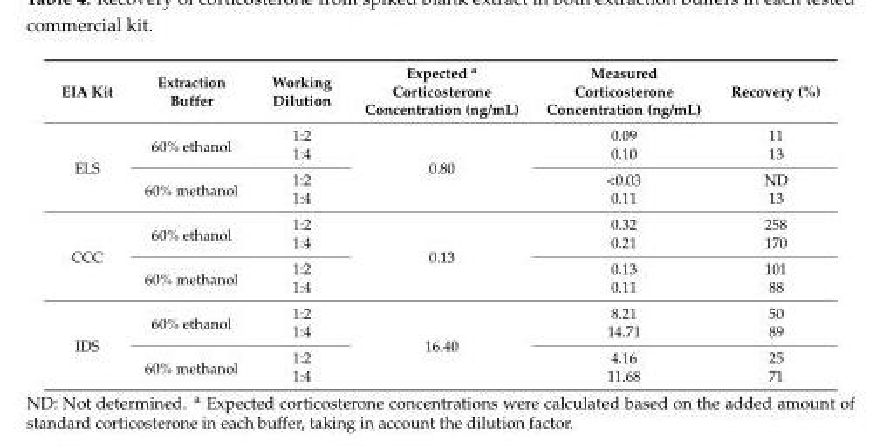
<table><thead><tr><td>EIA Kit</td><td>Extraction Buffer</td><td>Working Dilution</td><td>Expected <sup>a</sup> Corticosterone Concentration (ng/mL)</td><td>Measured Corticosterone Concentration (ng/mL)</td><td>Recovery (%)</td></tr></thead><tbody><tr><td rowspan="4">ELS</td><td rowspan="2">60% ethanol</td><td>1:2</td><td rowspan="4">0.80</td><td>0.09</td><td>11</td></tr><tr><td>1:4</td><td>0.10</td><td>13</td></tr><tr><td rowspan="2">60% methanol</td><td>1:2</td><td>&lt;0.03</td><td>ND</td></tr><tr><td>1:4</td><td>0.11</td><td>13</td></tr><tr><td rowspan="4">CCC</td><td rowspan="2">60% ethanol</td><td>1:2</td><td rowspan="4">0.13</td><td>0.32</td><td>258</td></tr><tr><td>1:4</td><td>0.21</td><td>170</td></tr><tr><td rowspan="2">60% methanol</td><td>1:2</td><td>0.13</td><td>101</td></tr><tr><td>1:4</td><td>0.11</td><td>88</td></tr><tr><td rowspan="4">IDS</td><td rowspan="2">60% ethanol</td><td>1:2</td><td rowspan="4">16.40</td><td>8.21</td><td>50</td></tr><tr><td>1:4</td><td>14.71</td><td>89</td></tr><tr><td rowspan="2">60% methanol</td><td>1:2</td><td>4.16</td><td>25</td></tr><tr><td>1:4</td><td>11.68</td><td>71</td></tr></tbody></table>